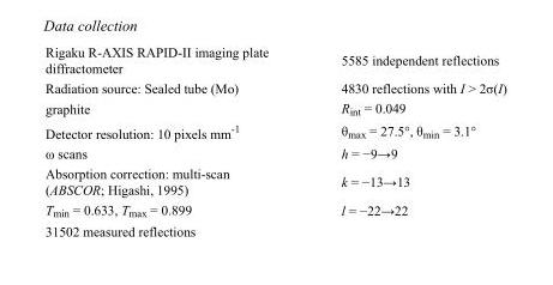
<table><tbody><tr><td>Rigaku R-AXIS RAPID-II imaging plate diffractometer</td><td>5585 independent reflections</td></tr><tr><td>Radiation source: Sealed tube (Mo)</td><td>4830 reflections with I &gt; 2σ(I)</td></tr><tr><td>graphite</td><td>R<sub>int</sub> = 0.049</td></tr><tr><td>Detector resolution: 10 pixels mm<sup>-1</sup></td><td>θ<sub>max</sub> = 27.5°, θ<sub>min</sub> = 3.1°</td></tr><tr><td>ω scans</td><td>h = −9→9</td></tr><tr><td>Absorption correction: multi-scan (ABSCOR; Higashi, 1995)</td><td>k = −13→13</td></tr><tr><td>T<sub>min</sub> = 0.633, T<sub>max</sub> = 0.899</td><td>l = −22→22</td></tr><tr><td>31502 measured reflections</td><td></td></tr></tbody></table>